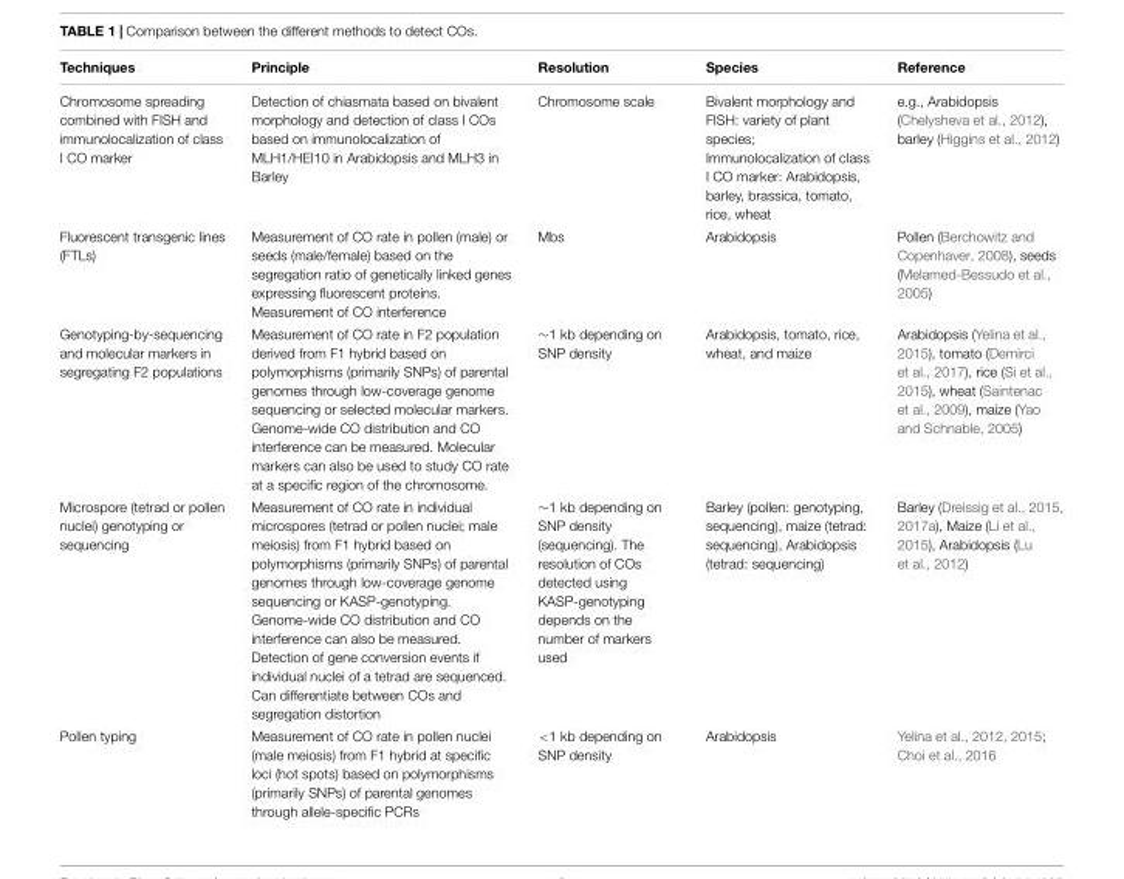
<table><thead><tr><td>Techniques</td><td>Principle</td><td>Resolution</td><td>Species</td><td>Reference</td></tr></thead><tbody><tr><td>Chromosome spreading combined with FISH and immunolocalization of class I CO marker</td><td>Detection of chiasmata based on bivalent morphology and detection of class I COs based on immunolocalization of MLH1/HEI10 in Arabidopsis and MLH3 in Barley</td><td>Chromosome scale</td><td>Bivalent morphology and FISH: variety of plant species; Immunolocalization of class I CO marker: Arabidopsis, barley, brassica, tomato, rice, wheat</td><td>e.g., Arabidopsis (Chelysheva et al., 2012), barley (Higgins et al., 2012)</td></tr><tr><td>Fluorescent transgenic lines (FTLs)</td><td>Measurement of CO rate in pollen (male) or seeds (male/female) based on the segregation ratio of genetically linked genes expressing fluorescent proteins. Measurement of CO interference</td><td>Mbs</td><td>Arabidopsis</td><td>Pollen (Berchowitz and Copenhaver, 2008), seeds (Melamed-Bessudo et al., 2005)</td></tr><tr><td>Genotyping-by-sequencing and molecular markers in segregating F2 populations</td><td>Measurement of CO rate in F2 population derived from F1 hybrid based on polymorphisms (primarily SNPs) of parental genomes through low-coverage genome sequencing or selected molecular markers. Genome-wide CO distribution and CO interference can be measured. Molecular markers can also be used to study CO rate at a specific region of the chromosome.</td><td>∼1 kb depending on SNP density</td><td>Arabidopsis, tomato, rice, wheat, and maize</td><td>Arabidopsis (Yelina et al., 2015), tomato (Demirci et al., 2017), rice (Si et al., 2015), wheat (Saintenac et al., 2009), maize (Yao and Schnable, 2005)</td></tr><tr><td>Microspore (tetrad or pollen nuclei) genotyping or sequencing</td><td>Measurement of CO rate in individual microspores (tetrad or pollen nuclei; male meiosis) from F1 hybrid based on polymorphisms (primarily SNPs) of parental genomes through low-coverage genome sequencing or KASP-genotyping. Genome-wide CO distribution and CO interference can also be measured. Detection of gene conversion events if individual nuclei of a tetrad are sequenced. Can differentiate between COs and segregation distortion</td><td>∼1 kb depending on SNP density (sequencing). The resolution of COs detected using KASP-genotyping depends on the number of markers used</td><td>Barley (pollen: genotyping, sequencing), maize (tetrad: sequencing), Arabidopsis (tetrad: sequencing)</td><td>Barley (Dreissig et al., 2015, 2017a), Maize (Li et al., 2015), Arabidopsis (Lu et al., 2012)</td></tr><tr><td>Pollen typing</td><td>Measurement of CO rate in pollen nuclei (male meiosis) from F1 hybrid at specific loci (hot spots) based on polymorphisms (primarily SNPs) of parental genomes through allele-specific PCRs</td><td>&lt;1 kb depending on SNP density</td><td>Arabidopsis</td><td>Yelina et al., 2012, 2015; Choi et al., 2016</td></tr></tbody></table>